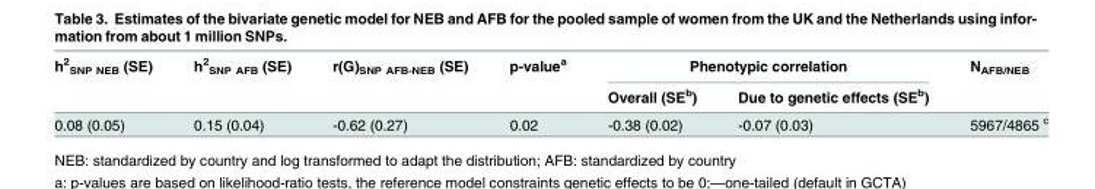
<table><thead><tr><td rowspan="2">h<sup>2</sup> <sub>SNP NEB</sub> (SE)</td><td rowspan="2">h<sup>2</sup> <sub>SNP AFB</sub> (SE)</td><td rowspan="2">r(G)<sub>SNP AFB-NEB</sub> (SE)</td><td rowspan="2">p-value<sup>a</sup></td><td colspan="2">Phenotypic correlation</td><td rowspan="2">N<sub>AFB/NEB</sub></td></tr><tr><td>Overall (SE<sup>b</sup>)</td><td>Due to genetic effects (SE<sup>b</sup>)</td></tr></thead><tbody><tr><td>0.08 (0.05)</td><td>0.15 (0.04)</td><td>-0.62 (0.27)</td><td>0.02</td><td>-0.38 (0.02)</td><td>-0.07 (0.03)</td><td>5967/4865</td></tr></tbody></table>